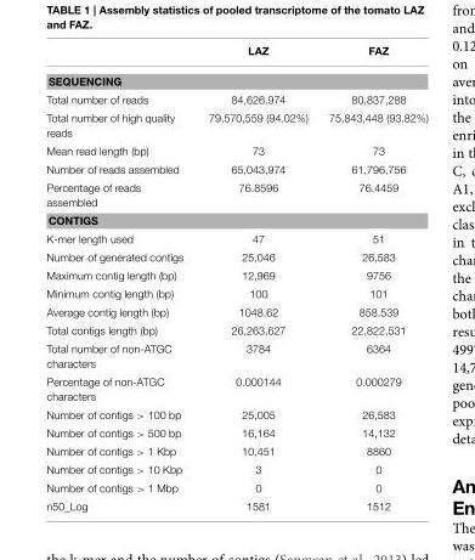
<table><thead><tr><td></td><td>LAZ</td><td>FAZ</td></tr></thead><tbody><tr><td colspan="3">SEQUENCING</td></tr><tr><td>Total number of reads</td><td>84,626,974</td><td>80,837,288</td></tr><tr><td>Total number of high quality reads</td><td>79,570,559 (94.02%)</td><td>75,843,448 (93.82%)</td></tr><tr><td>Mean read length (bp)</td><td>73</td><td>73</td></tr><tr><td>Number of reads assembled</td><td>65,043,974</td><td>61,796,756</td></tr><tr><td>Percentage of reads assembled</td><td>76.8596</td><td>76.4459</td></tr><tr><td colspan="3">CONTIGS</td></tr><tr><td>K-mer length used</td><td>47</td><td>51</td></tr><tr><td>Number of generated contigs</td><td>25,046</td><td>26,583</td></tr><tr><td>Maximum contig length (bp)</td><td>12,969</td><td>9756</td></tr><tr><td>Minimum contig length (bp)</td><td>100</td><td>101</td></tr><tr><td>Average contig length (bp)</td><td>1048.62</td><td>858.539</td></tr><tr><td>Total contigs length (bp)</td><td>26,263,627</td><td>22,822,531</td></tr><tr><td>Total number of non-ATGC characters</td><td>3784</td><td>6364</td></tr><tr><td>Percentage of non-ATGC characters</td><td>0.000144</td><td>0.000279</td></tr><tr><td>Number of contigs &gt; 100 bp</td><td>25,005</td><td>26,583</td></tr><tr><td>Number of contigs &gt; 500 bp</td><td>16,164</td><td>14,132</td></tr><tr><td>Number of contigs &gt; 1 Kbp</td><td>10,451</td><td>8860</td></tr><tr><td>Number of contigs &gt; 10 Kbp</td><td>3</td><td>0</td></tr><tr><td>Number of contigs &gt; 1 Mbp</td><td>0</td><td>0</td></tr><tr><td>n50_Log</td><td>1581</td><td>1512</td></tr></tbody></table>